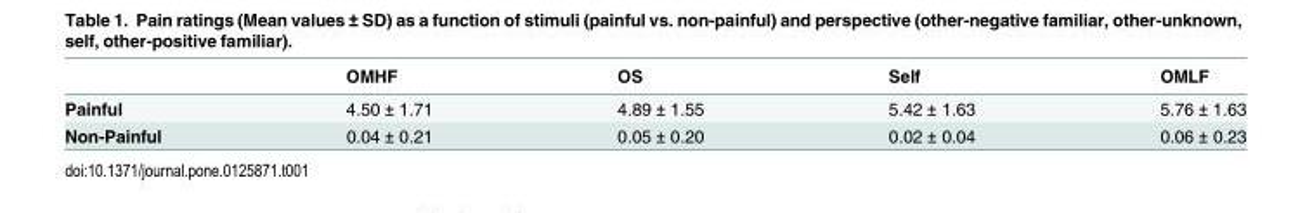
<table><thead><tr><td></td><td>OMHF</td><td>OS</td><td>Self</td><td>OMLF</td></tr></thead><tbody><tr><td>Painful</td><td>4.50 ± 1.71</td><td>4.89 ± 1.55</td><td>5.42 ± 1.63</td><td>5.76 ± 1.63</td></tr><tr><td>Non-Painful</td><td>0.04 ± 0.21</td><td>0.05 ± 0.20</td><td>0.02 ± 0.04</td><td>0.06 ± 0.23</td></tr></tbody></table>